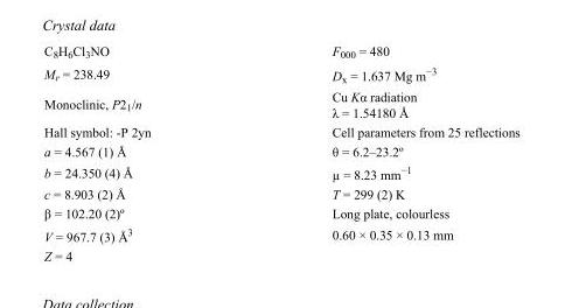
<table><tbody><tr><td>C<sub>8</sub>H<sub>6</sub>Cl<sub>3</sub>NO</td><td>F<sub>000</sub> = 480</td></tr><tr><td>M<sub>r</sub> = 238.49</td><td>D<sub>x</sub> = 1.637 Mg m<sup>−3</sup></td></tr><tr><td>Monoclinic, P2<sub>1</sub>/n</td><td>Cu Kα radiation λ = 1.54180 Å</td></tr><tr><td>Hall symbol: -P 2yn</td><td>Cell parameters from 25 reflections</td></tr><tr><td>a = 4.567 (1) Å</td><td>θ = 6.2–23.2º</td></tr><tr><td>b = 24.350 (4) Å</td><td>µ = 8.23 mm<sup>−1</sup></td></tr><tr><td>c = 8.903 (2) Å</td><td>T = 299 (2) K</td></tr><tr><td>β = 102.20 (2)º</td><td>Long plate, colourless</td></tr><tr><td>V = 967.7 (3) Å<sup>3</sup></td><td>0.60 × 0.35 × 0.13 mm</td></tr><tr><td>Z = 4</td><td></td></tr></tbody></table>